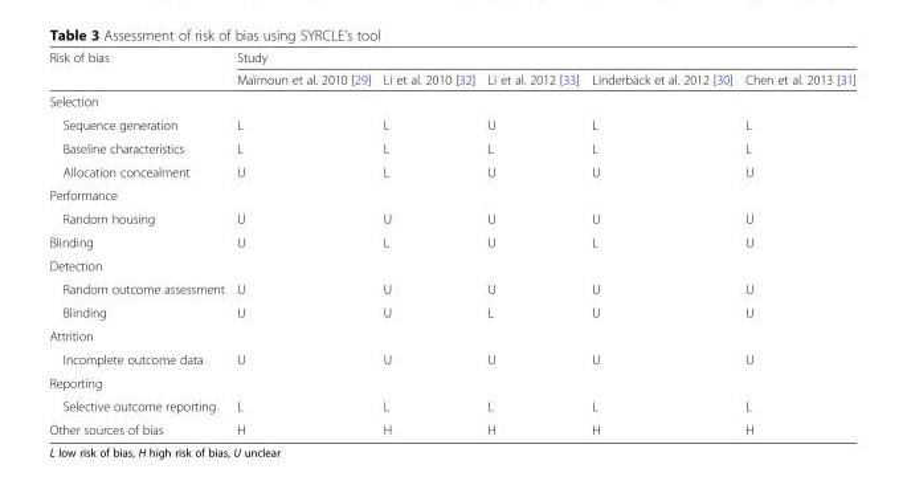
<table><thead><tr><td rowspan="2">Risk of bias</td><td colspan="5">Study</td></tr><tr><td>Maïmoun et al. 2010 [29]</td><td>Li et al. 2010 [32]</td><td>Li et al. 2012 [33]</td><td>Linderbäck et al. 2012 [30]</td><td>Chen et al. 2013 [31]</td></tr></thead><tbody><tr><td colspan="6">Selection</td></tr><tr><td>Sequence generation</td><td>L</td><td>L</td><td>U</td><td>L</td><td>L</td></tr><tr><td>Baseline characteristics</td><td>L</td><td>L</td><td>L</td><td>L</td><td>L</td></tr><tr><td>Allocation concealment</td><td>U</td><td>L</td><td>U</td><td>U</td><td>U</td></tr><tr><td colspan="6">Performance</td></tr><tr><td>Random housing</td><td>U</td><td>U</td><td>U</td><td>U</td><td>U</td></tr><tr><td>Blinding</td><td>U</td><td>L</td><td>U</td><td>L</td><td>U</td></tr><tr><td colspan="6">Detection</td></tr><tr><td>Random outcome assessment</td><td>U</td><td>U</td><td>U</td><td>U</td><td>U</td></tr><tr><td>Blinding</td><td>U</td><td>U</td><td>L</td><td>U</td><td>U</td></tr><tr><td colspan="6">Attrition</td></tr><tr><td>Incomplete outcome data</td><td>U</td><td>U</td><td>U</td><td>U</td><td>U</td></tr><tr><td colspan="6">Reporting</td></tr><tr><td>Selective outcome reporting</td><td>L</td><td>L</td><td>L</td><td>L</td><td>L</td></tr><tr><td>Other sources of bias</td><td>H</td><td>H</td><td>H</td><td>H</td><td>H</td></tr></tbody></table>